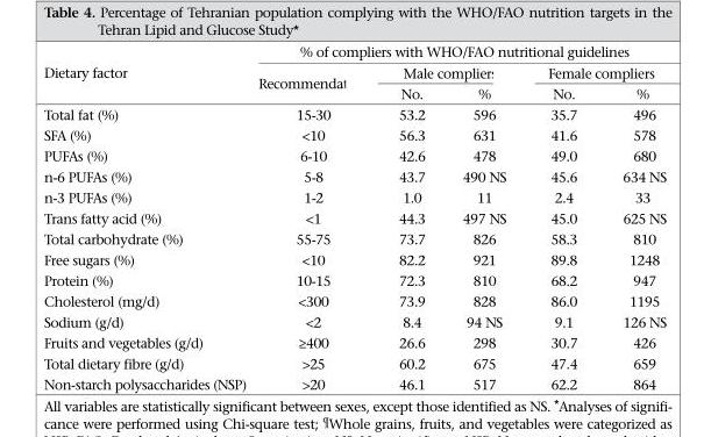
<table><thead><tr><td rowspan="3">Dietary factor</td><td colspan="5">% of compliers with WHO/FAO nutritional guidelines</td></tr><tr><td rowspan="2">Recommendation</td><td colspan="2">Male compliers</td><td colspan="2">Female compliers</td></tr><tr><td>No.</td><td>%</td><td>No.</td><td>%</td></tr></thead><tbody><tr><td>Total fat (%)</td><td>15-30</td><td>53.2</td><td>596</td><td>35.7</td><td>496</td></tr><tr><td>SFA (%)</td><td>&lt;10</td><td>56.3</td><td>631</td><td>41.6</td><td>578</td></tr><tr><td>PUFAs (%)</td><td>6-10</td><td>42.6</td><td>478</td><td>49.0</td><td>680</td></tr><tr><td>n-6 PUFAs (%)</td><td>5-8</td><td>43.7</td><td>490 NS</td><td>45.6</td><td>634 NS</td></tr><tr><td>n-3 PUFAs (%)</td><td>1-2</td><td>1.0</td><td>11</td><td>2.4</td><td>33</td></tr><tr><td>Trans fatty acid (%)</td><td>&lt;1</td><td>44.3</td><td>497 NS</td><td>45.0</td><td>625 NS</td></tr><tr><td>Total carbohydrate (%)</td><td>55-75</td><td>73.7</td><td>826</td><td>58.3</td><td>810</td></tr><tr><td>Free sugars (%)</td><td>&lt;10</td><td>82.2</td><td>921</td><td>89.8</td><td>1248</td></tr><tr><td>Protein (%)</td><td>10-15</td><td>72.3</td><td>810</td><td>68.2</td><td>947</td></tr><tr><td>Cholesterol (mg/d)</td><td>&lt;300</td><td>73.9</td><td>828</td><td>86.0</td><td>1195</td></tr><tr><td>Sodium (g/d)</td><td>&lt;2</td><td>8.4</td><td>94 NS</td><td>9.1</td><td>126 NS</td></tr><tr><td>Fruits and vegetables (g/d)</td><td>≥400</td><td>26.6</td><td>298</td><td>30.7</td><td>426</td></tr><tr><td>Total dietary fibre (g/d)</td><td>&gt;25</td><td>60.2</td><td>675</td><td>47.4</td><td>659</td></tr><tr><td>Non-starch polysaccharides (NSP)</td><td>&gt;20</td><td>46.1</td><td>517</td><td>62.2</td><td>864</td></tr></tbody></table>